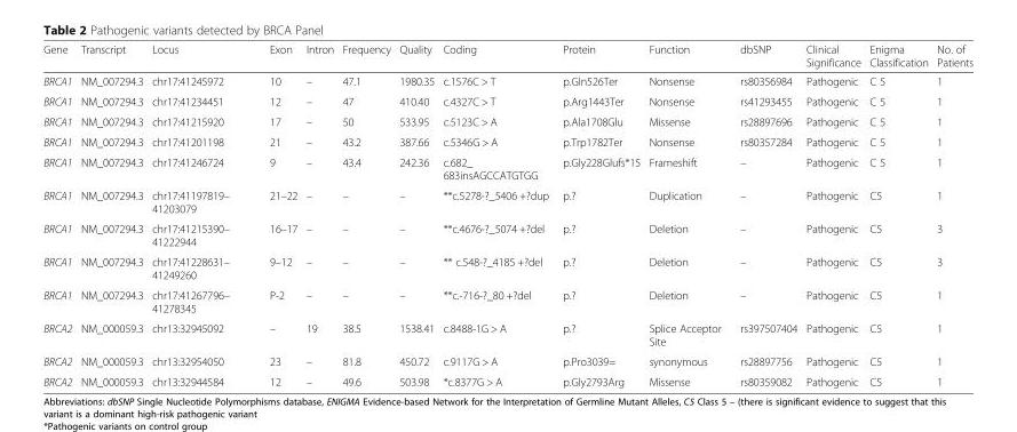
<table><thead><tr><td>Gene</td><td>Transcript</td><td>Locus</td><td>Exon</td><td>Intron</td><td>Frequency</td><td>Quality</td><td>Coding</td><td>Protein</td><td>Function</td><td>dbSNP</td><td>Clinical Significance</td><td>Enigma Classification</td><td>No. of Patients</td></tr></thead><tbody><tr><td>BRCA1</td><td>NM_007294.3</td><td>chr17:41245972</td><td>10</td><td>–</td><td>47.1</td><td>1980.35</td><td>c.1576C &gt; T</td><td>p.Gln526Ter</td><td>Nonsense</td><td>rs80356984</td><td>Pathogenic</td><td>C 5</td><td>1</td></tr><tr><td>BRCA1</td><td>NM_007294.3</td><td>chr17:41234451</td><td>12</td><td>–</td><td>47</td><td>410.40</td><td>c.4327C &gt; T</td><td>p.Arg1443Ter</td><td>Nonsense</td><td>rs41293455</td><td>Pathogenic</td><td>C 5</td><td>1</td></tr><tr><td>BRCA1</td><td>NM_007294.3</td><td>chr17:41215920</td><td>17</td><td>–</td><td>50</td><td>533.95</td><td>c.5123C &gt; A</td><td>p.Ala1708Glu</td><td>Missense</td><td>rs28897696</td><td>Pathogenic</td><td>C 5</td><td>1</td></tr><tr><td>BRCA1</td><td>NM_007294.3</td><td>chr17:41201198</td><td>21</td><td>–</td><td>43.2</td><td>387.66</td><td>c.5346G &gt; A</td><td>p.Trp1782Ter</td><td>Nonsense</td><td>rs80357284</td><td>Pathogenic</td><td>C 5</td><td>1</td></tr><tr><td>BRCA1</td><td>NM_007294.3</td><td>chr17:41246724</td><td>9</td><td>–</td><td>43.4</td><td>242.36</td><td>c.682_ 683insAGCCATGTGG</td><td>p.Gly228Glufs*15</td><td>Frameshift</td><td>–</td><td>Pathogenic</td><td>C 5</td><td>1</td></tr><tr><td>BRCA1</td><td>NM_007294.3</td><td>chr17:41197819– 41203079</td><td>21–22</td><td>–</td><td>–</td><td>–</td><td>**c.5278-?_5406 +?dup</td><td>p.?</td><td>Duplication</td><td>–</td><td>Pathogenic</td><td>C5</td><td>1</td></tr><tr><td>BRCA1</td><td>NM_007294.3</td><td>chr17:41215390– 41222944</td><td>16–17</td><td>–</td><td>–</td><td>–</td><td>**c.4676-?_5074 +?del</td><td>p.?</td><td>Deletion</td><td>–</td><td>Pathogenic</td><td>C5</td><td>3</td></tr><tr><td>BRCA1</td><td>NM_007294.3</td><td>chr17:41228631– 41249260</td><td>9–12</td><td>–</td><td>–</td><td>–</td><td>** c.548-?_4185 +?del</td><td>p.?</td><td>Deletion</td><td>–</td><td>Pathogenic</td><td>C5</td><td>3</td></tr><tr><td>BRCA1</td><td>NM_007294.3</td><td>chr17:41267796– 41278345</td><td>P-2</td><td>–</td><td>–</td><td>–</td><td>**c.-716-?_80 +?del</td><td>p.?</td><td>Deletion</td><td>–</td><td>Pathogenic</td><td>C5</td><td>1</td></tr><tr><td>BRCA2</td><td>NM_000059.3</td><td>chr13:32945092</td><td>–</td><td>19</td><td>38.5</td><td>1538.41</td><td>c.8488-1G &gt; A</td><td>p.?</td><td>Splice Acceptor Site</td><td>rs397507404</td><td>Pathogenic</td><td>C5</td><td>1</td></tr><tr><td>BRCA2</td><td>NM_000059.3</td><td>chr13:32954050</td><td>23</td><td>–</td><td>81.8</td><td>450.72</td><td>c.9117G &gt; A</td><td>p.Pro3039=</td><td>synonymous</td><td>rs28897756</td><td>Pathogenic</td><td>C5</td><td>1</td></tr><tr><td>BRCA2</td><td>NM_000059.3</td><td>chr13:32944584</td><td>12</td><td>–</td><td>49.6</td><td>503.98</td><td>*c.8377G &gt; A</td><td>p.Gly2793Arg</td><td>Missense</td><td>rs80359082</td><td>Pathogenic</td><td>C5</td><td>1</td></tr></tbody></table>